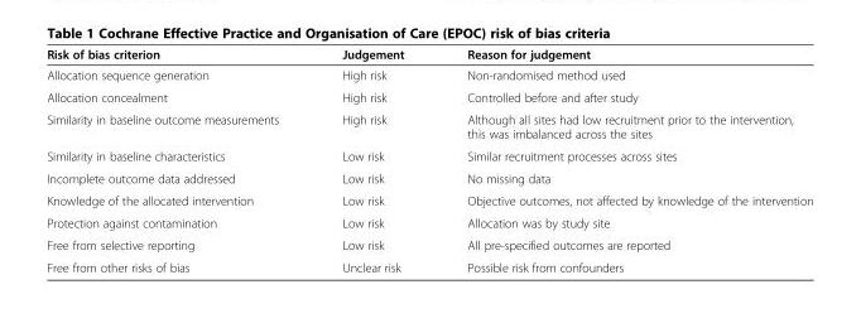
<table><thead><tr><td>Risk of bias criterion</td><td>Judgement</td><td>Reason for judgement</td></tr></thead><tbody><tr><td>Allocation sequence generation</td><td>High risk</td><td>Non-randomised method used</td></tr><tr><td>Allocation concealment</td><td>High risk</td><td>Controlled before and after study</td></tr><tr><td>Similarity in baseline outcome measurements</td><td>High risk</td><td>Although all sites had low recruitment prior to the intervention, this was imbalanced across the sites</td></tr><tr><td>Similarity in baseline characteristics</td><td>Low risk</td><td>Similar recruitment processes across sites</td></tr><tr><td>Incomplete outcome data addressed</td><td>Low risk</td><td>No missing data</td></tr><tr><td>Knowledge of the allocated intervention</td><td>Low risk</td><td>Objective outcomes, not affected by knowledge of the intervention</td></tr><tr><td>Protection against contamination</td><td>Low risk</td><td>Allocation was by study site</td></tr><tr><td>Free from selective reporting</td><td>Low risk</td><td>All pre-specified outcomes are reported</td></tr><tr><td>Free from other risks of bias</td><td>Unclear risk</td><td>Possible risk from confounders</td></tr></tbody></table>